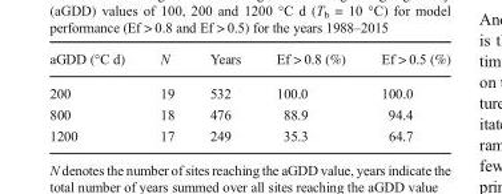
<table><thead><tr><td>aGDD (°C d)</td><td>N</td><td>Years</td><td>Ef &gt; 0.8 (%)</td><td>Ef &gt; 0.5 (%)</td></tr></thead><tbody><tr><td>200</td><td>19</td><td>532</td><td>100.0</td><td>100.0</td></tr><tr><td>800</td><td>18</td><td>476</td><td>88.9</td><td>94.4</td></tr><tr><td>1200</td><td>17</td><td>249</td><td>35.3</td><td>64.7</td></tr></tbody></table>